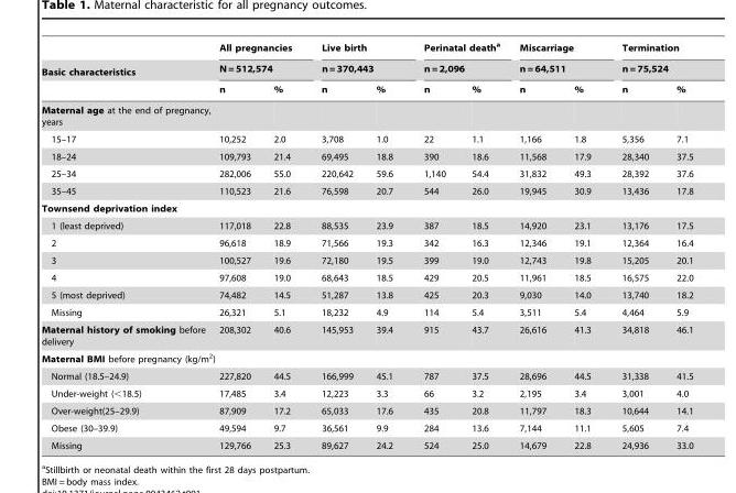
<table><thead><tr><td rowspan="3">Basic characteristics</td><td rowspan="2" colspan="2">All pregnancies N = 512,574</td><td rowspan="2" colspan="2">Live birth n = 370,443</td><td rowspan="2" colspan="2">Perinatal death<sup>a</sup> n = 2,096</td><td rowspan="2" colspan="2">Miscarriage n = 64,511</td><td rowspan="2" colspan="2">Termination n = 75,524</td></tr><tr></tr><tr><td>n</td><td>%</td><td>n</td><td>%</td><td>n</td><td>%</td><td>n</td><td>%</td><td>n</td><td>%</td></tr></thead><tbody><tr><td colspan="11">Maternal age at the end of pregnancy, years</td></tr><tr><td>15–17</td><td>10,252</td><td>2.0</td><td>3,708</td><td>1.0</td><td>22</td><td>1.1</td><td>1,166</td><td>1.8</td><td>5,356</td><td>7.1</td></tr><tr><td>18–24</td><td>109,793</td><td>21.4</td><td>69,495</td><td>18.8</td><td>390</td><td>18.6</td><td>11,568</td><td>17.9</td><td>28,340</td><td>37.5</td></tr><tr><td>25–34</td><td>282,006</td><td>55.0</td><td>220,642</td><td>59.6</td><td>1,140</td><td>54.4</td><td>31,832</td><td>49.3</td><td>28,392</td><td>37.6</td></tr><tr><td>35–45</td><td>110,523</td><td>21.6</td><td>76,598</td><td>20.7</td><td>544</td><td>26.0</td><td>19,945</td><td>30.9</td><td>13,436</td><td>17.8</td></tr><tr><td colspan="11">Townsend deprivation index</td></tr><tr><td>1 (least deprived)</td><td>117,018</td><td>22.8</td><td>88,535</td><td>23.9</td><td>387</td><td>18.5</td><td>14,920</td><td>23.1</td><td>13,176</td><td>17.5</td></tr><tr><td>2</td><td>96,618</td><td>18.9</td><td>71,566</td><td>19.3</td><td>342</td><td>16.3</td><td>12,346</td><td>19.1</td><td>12,364</td><td>16.4</td></tr><tr><td>3</td><td>100,527</td><td>19.6</td><td>72,180</td><td>19.5</td><td>399</td><td>19.0</td><td>12,743</td><td>19.8</td><td>15,205</td><td>20.1</td></tr><tr><td>4</td><td>97,608</td><td>19.0</td><td>68,643</td><td>18.5</td><td>429</td><td>20.5</td><td>11,961</td><td>18.5</td><td>16,575</td><td>22.0</td></tr><tr><td>5 (most deprived)</td><td>74,482</td><td>14.5</td><td>51,287</td><td>13.8</td><td>425</td><td>20.3</td><td>9,030</td><td>14.0</td><td>13,740</td><td>18.2</td></tr><tr><td>Missing</td><td>26,321</td><td>5.1</td><td>18,232</td><td>4.9</td><td>114</td><td>5.4</td><td>3,511</td><td>5.4</td><td>4,464</td><td>5.9</td></tr><tr><td>Maternal history of smoking before delivery</td><td>208,302</td><td>40.6</td><td>145,953</td><td>39.4</td><td>915</td><td>43.7</td><td>26,616</td><td>41.3</td><td>34,818</td><td>46.1</td></tr><tr><td colspan="11">Maternal BMI before pregnancy (kg/m<sup>2</sup>)</td></tr><tr><td>Normal (18.5–24.9)</td><td>227,820</td><td>44.5</td><td>166,999</td><td>45.1</td><td>787</td><td>37.5</td><td>28,696</td><td>44.5</td><td>31,338</td><td>41.5</td></tr><tr><td>Under-weight (&lt;18.5)</td><td>17,485</td><td>3.4</td><td>12,223</td><td>3.3</td><td>66</td><td>3.2</td><td>2,195</td><td>3.4</td><td>3,001</td><td>4.0</td></tr><tr><td>Over-weight(25–29.9)</td><td>87,909</td><td>17.2</td><td>65,033</td><td>17.6</td><td>435</td><td>20.8</td><td>11,797</td><td>18.3</td><td>10,644</td><td>14.1</td></tr><tr><td>Obese (30–39.9)</td><td>49,594</td><td>9.7</td><td>36,561</td><td>9.9</td><td>284</td><td>13.6</td><td>7,144</td><td>11.1</td><td>5,605</td><td>7.4</td></tr><tr><td>Missing</td><td>129,766</td><td>25.3</td><td>89,627</td><td>24.2</td><td>524</td><td>25.0</td><td>14,679</td><td>22.8</td><td>24,936</td><td>33.0</td></tr></tbody></table>